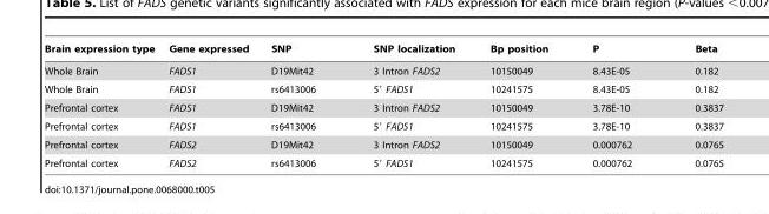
<table><thead><tr><td>Brain expression type</td><td>Gene expressed</td><td>SNP</td><td>SNP localization</td><td>Bp position</td><td>P</td><td>Beta</td></tr></thead><tbody><tr><td>Whole Brain</td><td>FADS1</td><td>D19Mit42</td><td>3 Intron FADS2</td><td>10150049</td><td>8.43E-05</td><td>0.182</td></tr><tr><td>Whole Brain</td><td>FADS1</td><td>rs6413006</td><td>5′ FADS1</td><td>10241575</td><td>8.43E-05</td><td>0.182</td></tr><tr><td>Prefrontal cortex</td><td>FADS1</td><td>D19Mit42</td><td>3 Intron FADS2</td><td>10150049</td><td>3.78E-10</td><td>0.3837</td></tr><tr><td>Prefrontal cortex</td><td>FADS1</td><td>rs6413006</td><td>5′ FADS1</td><td>10241575</td><td>3.78E-10</td><td>0.3837</td></tr><tr><td>Prefrontal cortex</td><td>FADS2</td><td>D19Mit42</td><td>3 Intron FADS2</td><td>10150049</td><td>0.000762</td><td>0.0765</td></tr><tr><td>Prefrontal cortex</td><td>FADS2</td><td>rs6413006</td><td>5′ FADS1</td><td>10241575</td><td>0.000762</td><td>0.0765</td></tr></tbody></table>